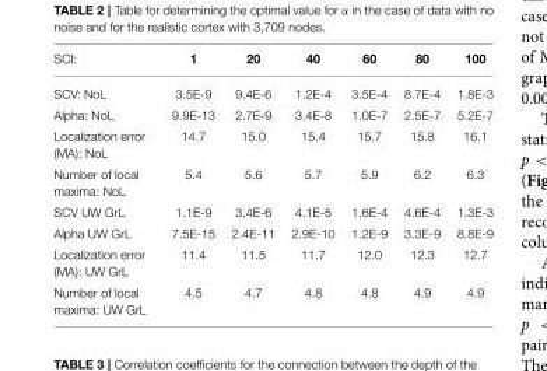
<table><thead><tr><td>SCI:</td><td>1</td><td>20</td><td>40</td><td>60</td><td>80</td><td>100</td></tr></thead><tbody><tr><td>SCV: NoL</td><td>3.5E-9</td><td>9.4E-6</td><td>1.2E-4</td><td>3.5E-4</td><td>8.7E-4</td><td>1.8E-3</td></tr><tr><td>Alpha: NoL</td><td>9.9E-13</td><td>2.7E-9</td><td>3.4E-8</td><td>1.0E-7</td><td>2.5E-7</td><td>5.2E-7</td></tr><tr><td>Localization error (MA): NoL</td><td>14.7</td><td>15.0</td><td>15.4</td><td>15.7</td><td>15.8</td><td>16.1</td></tr><tr><td>Number of local maxima: NoL</td><td>5.4</td><td>5.6</td><td>5.7</td><td>5.9</td><td>6.2</td><td>6.3</td></tr><tr><td>SCV UW GrL</td><td>1.1E-9</td><td>3.4E-6</td><td>4.1E-5</td><td>1.6E-4</td><td>4.6E-4</td><td>1.3E-3</td></tr><tr><td>Alpha UW GrL</td><td>7.5E-15</td><td>2.4E-11</td><td>2.9E-10</td><td>1.2E-9</td><td>3.3E-9</td><td>8.8E-9</td></tr><tr><td>Localization error (MA): UW GrL</td><td>11.4</td><td>11.5</td><td>11.7</td><td>12.0</td><td>12.3</td><td>12.7</td></tr><tr><td>Number of local maxima: UW GrL</td><td>4.5</td><td>4.7</td><td>4.8</td><td>4.8</td><td>4.9</td><td>4.9</td></tr></tbody></table>